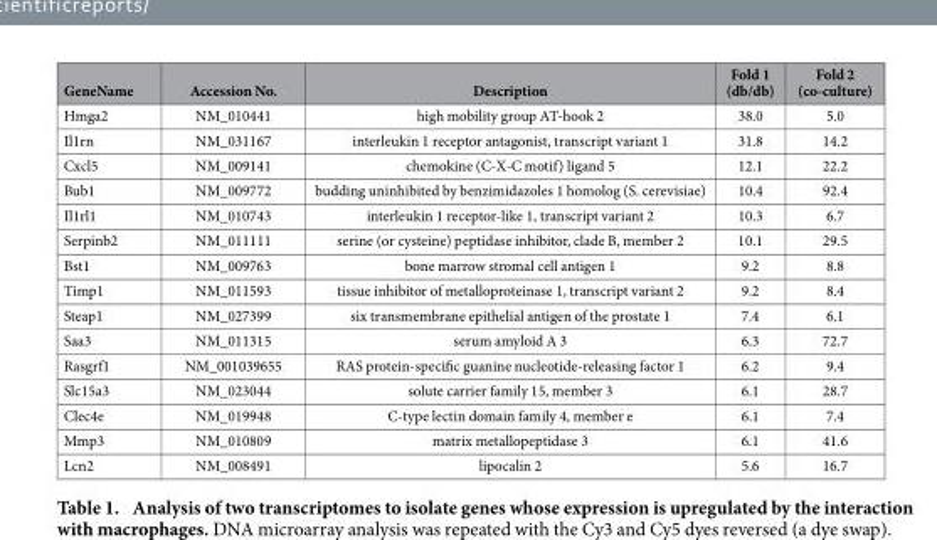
<table><thead><tr><td>GeneName</td><td>Accession No.</td><td>Description</td><td>Fold 1 (db/db)</td><td>Fold 2 (co-culture)</td></tr></thead><tbody><tr><td>Hmga2</td><td>NM_010441</td><td>high mobility group AT-hook 2</td><td>38.0</td><td>5.0</td></tr><tr><td>Il1rn</td><td>NM_031167</td><td>interleukin 1 receptor antagonist, transcript variant 1</td><td>31.8</td><td>14.2</td></tr><tr><td>Cxcl5</td><td>NM_009141</td><td>chemokine (C-X-C motif) ligand 5</td><td>12.1</td><td>22.2</td></tr><tr><td>Bub1</td><td>NM_009772</td><td>budding uninhibited by benzimidazoles 1 homolog (S. cerevisiae)</td><td>10.4</td><td>92.4</td></tr><tr><td>Il1rl1</td><td>NM_010743</td><td>interleukin 1 receptor-like 1, transcript variant 2</td><td>10.3</td><td>6.7</td></tr><tr><td>Serpinb2</td><td>NM_011111</td><td>serine (or cysteine) peptidase inhibitor, clade B, member 2</td><td>10.1</td><td>29.5</td></tr><tr><td>Bst1</td><td>NM_009763</td><td>bone marrow stromal cell antigen 1</td><td>9.2</td><td>8.8</td></tr><tr><td>Timp1</td><td>NM_011593</td><td>tissue inhibitor of metalloproteinase 1, transcript variant 2</td><td>9.2</td><td>8.4</td></tr><tr><td>Steap1</td><td>NM_027399</td><td>six transmembrane epithelial antigen of the prostate 1</td><td>7.4</td><td>6.1</td></tr><tr><td>Saa3</td><td>NM_011315</td><td>serum amyloid A 3</td><td>6.3</td><td>72.7</td></tr><tr><td>Rasgrf1</td><td>NM_001039655</td><td>RAS protein-specific guanine nucleotide-releasing factor 1</td><td>6.2</td><td>9.4</td></tr><tr><td>Slc15a3</td><td>NM_023044</td><td>solute carrier family 15, member 3</td><td>6.1</td><td>28.7</td></tr><tr><td>Clec4e</td><td>NM_019948</td><td>C-type lectin domain family 4, member e</td><td>6.1</td><td>7.4</td></tr><tr><td>Mmp3</td><td>NM_010809</td><td>matrix metallopeptidase 3</td><td>6.1</td><td>41.6</td></tr><tr><td>Lcn2</td><td>NM_008491</td><td>lipocalin 2</td><td>5.6</td><td>16.7</td></tr></tbody></table>